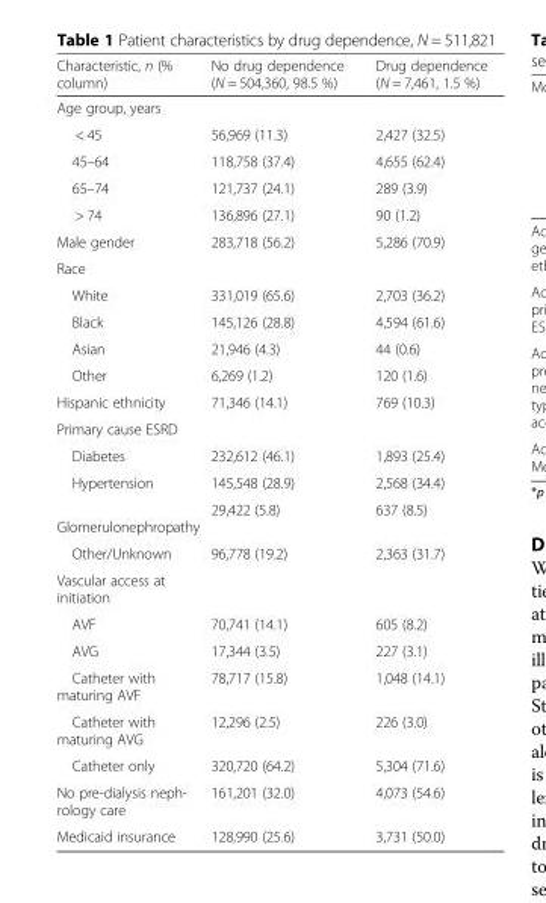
<table><thead><tr><td>Characteristic, n (% column)</td><td>No drug dependence (N = 504,360, 98.5 %)</td><td>Drug dependence (N = 7,461, 1.5 %)</td></tr></thead><tbody><tr><td colspan="3">Age group, years</td></tr><tr><td>&lt; 45</td><td>56,969 (11.3)</td><td>2,427 (32.5)</td></tr><tr><td>45–64</td><td>118,758 (37.4)</td><td>4,655 (62.4)</td></tr><tr><td>65–74</td><td>121,737 (24.1)</td><td>289 (3.9)</td></tr><tr><td>&gt; 74</td><td>136,896 (27.1)</td><td>90 (1.2)</td></tr><tr><td>Male gender</td><td>283,718 (56.2)</td><td>5,286 (70.9)</td></tr><tr><td colspan="3">Race</td></tr><tr><td>White</td><td>331,019 (65.6)</td><td>2,703 (36.2)</td></tr><tr><td>Black</td><td>145,126 (28.8)</td><td>4,594 (61.6)</td></tr><tr><td>Asian</td><td>21,946 (4.3)</td><td>44 (0.6)</td></tr><tr><td>Other</td><td>6,269 (1.2)</td><td>120 (1.6)</td></tr><tr><td>Hispanic ethnicity</td><td>71,346 (14.1)</td><td>769 (10.3)</td></tr><tr><td colspan="3">Primary cause ESRD</td></tr><tr><td>Diabetes</td><td>232,612 (46.1)</td><td>1,893 (25.4)</td></tr><tr><td>Hypertension</td><td>145,548 (28.9)</td><td>2,568 (34.4)</td></tr><tr><td>Glomerulonephropathy</td><td>29,422 (5.8)</td><td>637 (8.5)</td></tr><tr><td>Other/Unknown</td><td>96,778 (19.2)</td><td>2,363 (31.7)</td></tr><tr><td colspan="3">Vascular access at initiation</td></tr><tr><td>AVF</td><td>70,741 (14.1)</td><td>605 (8.2)</td></tr><tr><td>AVG</td><td>17,344 (3.5)</td><td>227 (3.1)</td></tr><tr><td>Catheter with maturing AVF</td><td>78,717 (15.8)</td><td>1,048 (14.1)</td></tr><tr><td>Catheter with maturing AVG</td><td>12,296 (2.5)</td><td>226 (3.0)</td></tr><tr><td>Catheter only</td><td>320,720 (64.2)</td><td>5,304 (71.6)</td></tr><tr><td>No pre-dialysis neph- rology care</td><td>161,201 (32.0)</td><td>4,073 (54.6)</td></tr><tr><td>Medicaid insurance</td><td>128,990 (25.6)</td><td>3,731 (50.0)</td></tr></tbody></table>